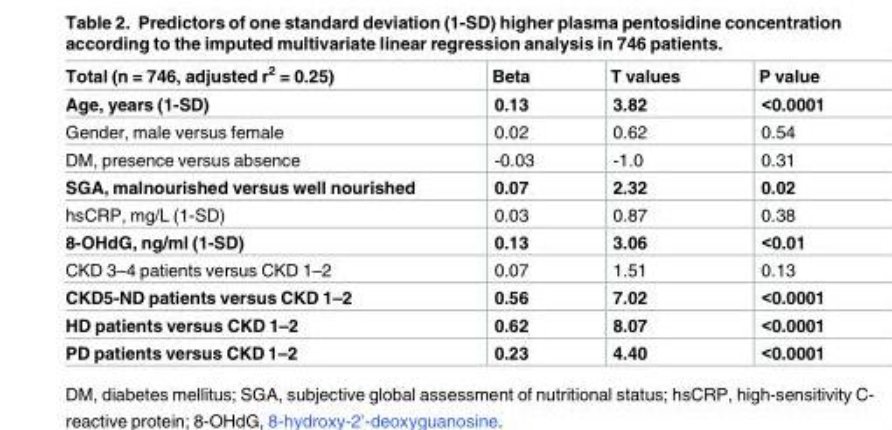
<table><thead><tr><td>Total (n = 746, adjusted r<sup>2</sup> = 0.25)</td><td>Beta</td><td>T values</td><td>P value</td></tr></thead><tbody><tr><td>Age, years (1-SD)</td><td>0.13</td><td>3.82</td><td>&lt;0.0001</td></tr><tr><td>Gender, male versus female</td><td>0.02</td><td>0.62</td><td>0.54</td></tr><tr><td>DM, presence versus absence</td><td>-0.03</td><td>-1.0</td><td>0.31</td></tr><tr><td>SGA, malnourished versus well nourished</td><td>0.07</td><td>2.32</td><td>0.02</td></tr><tr><td>hsCRP, mg/L (1-SD)</td><td>0.03</td><td>0.87</td><td>0.38</td></tr><tr><td>8-OHdG, ng/ml (1-SD)</td><td>0.13</td><td>3.06</td><td>&lt;0.01</td></tr><tr><td>CKD 3–4 patients versus CKD 1–2</td><td>0.07</td><td>1.51</td><td>0.13</td></tr><tr><td>CKD5-ND patients versus CKD 1–2</td><td>0.56</td><td>7.02</td><td>&lt;0.0001</td></tr><tr><td>HD patients versus CKD 1–2</td><td>0.62</td><td>8.07</td><td>&lt;0.0001</td></tr><tr><td>PD patients versus CKD 1–2</td><td>0.23</td><td>4.40</td><td>&lt;0.0001</td></tr></tbody></table>